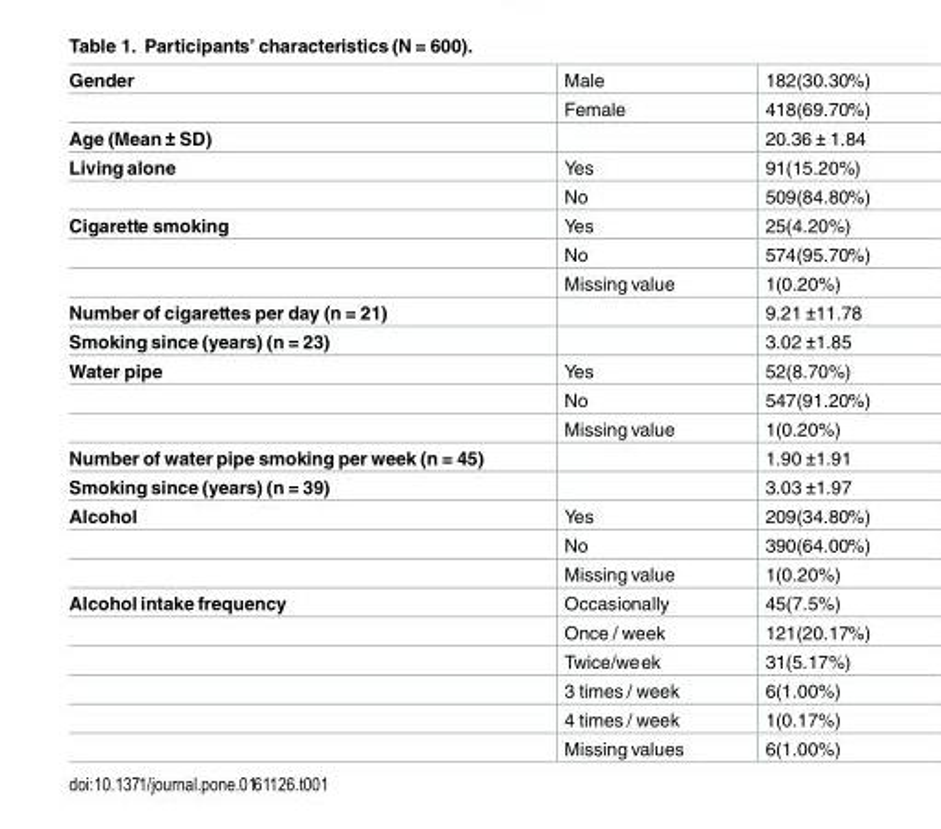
<table><tbody><tr><td rowspan="2">Gender</td><td>Male</td><td>182(30.30%)</td></tr><tr><td>Female</td><td>418(69.70%)</td></tr><tr><td>Age (Mean ± SD)</td><td></td><td>20.36 ± 1.84</td></tr><tr><td rowspan="2">Living alone</td><td>Yes</td><td>91(15.20%)</td></tr><tr><td>No</td><td>509(84.80%)</td></tr><tr><td rowspan="3">Cigarette smoking</td><td>Yes</td><td>25(4.20%)</td></tr><tr><td>No</td><td>574(95.70%)</td></tr><tr><td>Missing value</td><td>1(0.20%)</td></tr><tr><td>Number of cigarettes per day (n = 21)</td><td></td><td>9.21 ±11.78</td></tr><tr><td>Smoking since (years) (n = 23)</td><td></td><td>3.02 ±1.85</td></tr><tr><td rowspan="3">Water pipe</td><td>Yes</td><td>52(8.70%)</td></tr><tr><td>No</td><td>547(91.20%)</td></tr><tr><td>Missing value</td><td>1(0.20%)</td></tr><tr><td>Number of water pipe smoking per week (n = 45)</td><td></td><td>1.90 ±1.91</td></tr><tr><td>Smoking since (years) (n = 39)</td><td></td><td>3.03 ±1.97</td></tr><tr><td rowspan="3">Alcohol</td><td>Yes</td><td>209(34.80%)</td></tr><tr><td>No</td><td>390(64.00%)</td></tr><tr><td>Missing value</td><td>1(0.20%)</td></tr><tr><td rowspan="6">Alcohol intake frequency</td><td>Occasionally</td><td>45(7.5%)</td></tr><tr><td>Once / week</td><td>121(20.17%)</td></tr><tr><td>Twice/week</td><td>31(5.17%)</td></tr><tr><td>3 times / week</td><td>6(1.00%)</td></tr><tr><td>4 times / week</td><td>1(0.17%)</td></tr><tr><td>Missing values</td><td>6(1.00%)</td></tr></tbody></table>